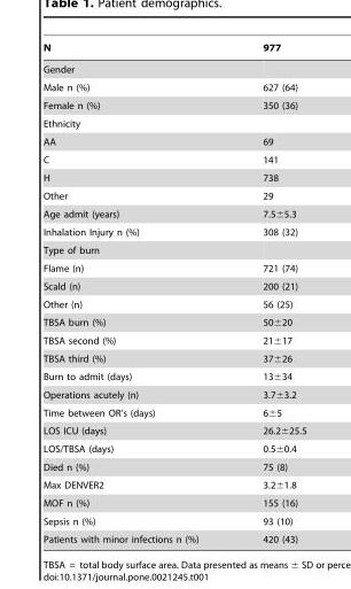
<table><thead><tr><td>N</td><td>977</td></tr></thead><tbody><tr><td colspan="2">Gender</td></tr><tr><td>Male n (%)</td><td>627 (64)</td></tr><tr><td>Female n (%)</td><td>350 (36)</td></tr><tr><td colspan="2">Ethnicity</td></tr><tr><td>AA</td><td>69</td></tr><tr><td>C</td><td>141</td></tr><tr><td>H</td><td>738</td></tr><tr><td>Other</td><td>29</td></tr><tr><td>Age admit (years)</td><td>7.5±5.3</td></tr><tr><td>Inhalation Injury n (%)</td><td>308 (32)</td></tr><tr><td colspan="2">Type of burn</td></tr><tr><td>Flame (n)</td><td>721 (74)</td></tr><tr><td>Scald (n)</td><td>200 (21)</td></tr><tr><td>Other (n)</td><td>56 (25)</td></tr><tr><td>TBSA burn (%)</td><td>50±20</td></tr><tr><td>TBSA second (%)</td><td>21±17</td></tr><tr><td>TBSA third (%)</td><td>37±26</td></tr><tr><td>Burn to admit (days)</td><td>13±34</td></tr><tr><td>Operations acutely (n)</td><td>3.7±3.2</td></tr><tr><td>Time between OR’s (days)</td><td>6±5</td></tr><tr><td>LOS ICU (days)</td><td>26.2±25.5</td></tr><tr><td>LOS/TBSA (days)</td><td>0.5±0.4</td></tr><tr><td>Died n (%)</td><td>75 (8)</td></tr><tr><td>Max DENVER2</td><td>3.2±1.8</td></tr><tr><td>MOF n (%)</td><td>155 (16)</td></tr><tr><td>Sepsis n (%)</td><td>93 (10)</td></tr><tr><td>Patients with minor infections n (%)</td><td>420 (43)</td></tr></tbody></table>